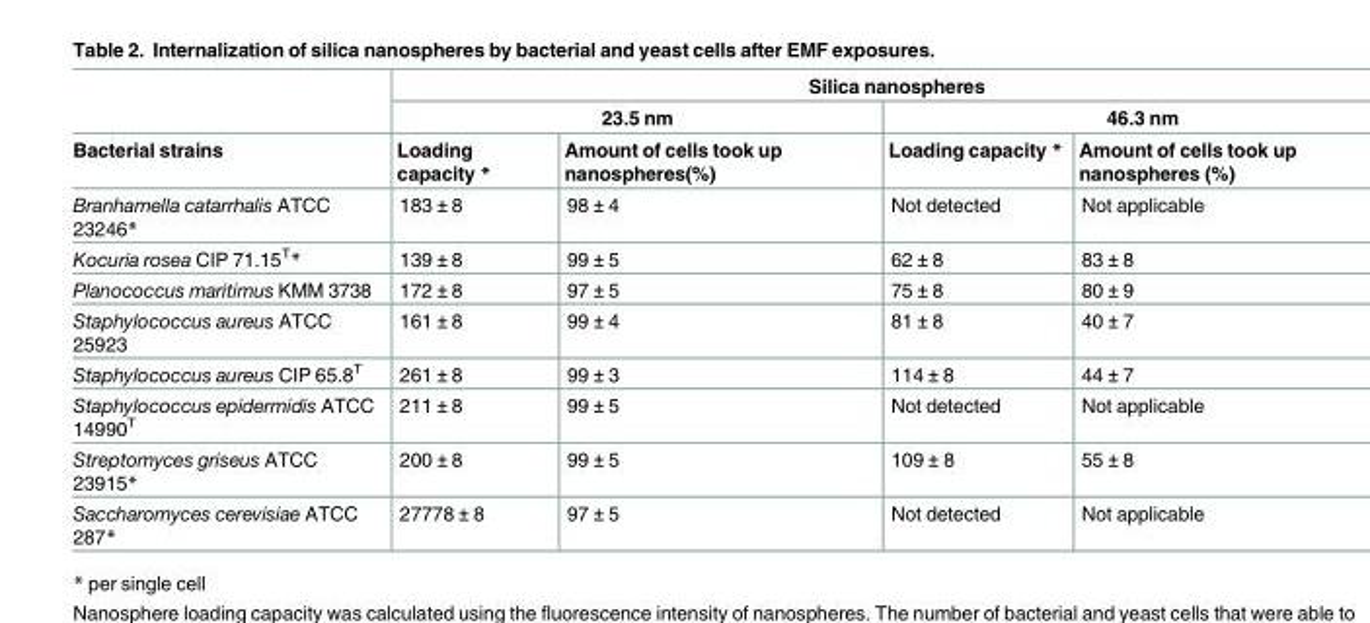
<table><thead><tr><td rowspan="3">Bacterial strains</td><td colspan="4">Silica nanospheres</td></tr><tr><td colspan="2">23.5 nm</td><td colspan="2">46.3 nm</td></tr><tr><td>Loading capacity *</td><td>Amount of cells took up nanospheres(%)</td><td>Loading capacity *</td><td>Amount of cells took up nanospheres (%)</td></tr></thead><tbody><tr><td>Branhamella catarrhalis ATCC 23246*</td><td>183 ± 8</td><td>98 ± 4</td><td>Not detected</td><td>Not applicable</td></tr><tr><td>Kocuria rosea CIP 71.15<sup>T</sup>*</td><td>139 ± 8</td><td>99 ± 5</td><td>62 ± 8</td><td>83 ± 8</td></tr><tr><td>Planococcus maritimus KMM 3738</td><td>172 ± 8</td><td>97 ± 5</td><td>75 ± 8</td><td>80 ± 9</td></tr><tr><td>Staphylococcus aureus ATCC 25923</td><td>161 ± 8</td><td>99 ± 4</td><td>81 ± 8</td><td>40 ± 7</td></tr><tr><td>Staphylococcus aureus CIP 65.8<sup>T</sup></td><td>261 ± 8</td><td>99 ± 3</td><td>114 ± 8</td><td>44 ± 7</td></tr><tr><td>Staphylococcus epidermidis ATCC 14990<sup>T</sup></td><td>211 ± 8</td><td>99 ± 5</td><td>Not detected</td><td>Not applicable</td></tr><tr><td>Streptomyces griseus ATCC 23915*</td><td>200 ± 8</td><td>99 ± 5</td><td>109 ± 8</td><td>55 ± 8</td></tr><tr><td>Saccharomyces cerevisiae ATCC 287*</td><td>27778 ± 8</td><td>97 ± 5</td><td>Not detected</td><td>Not applicable</td></tr></tbody></table>